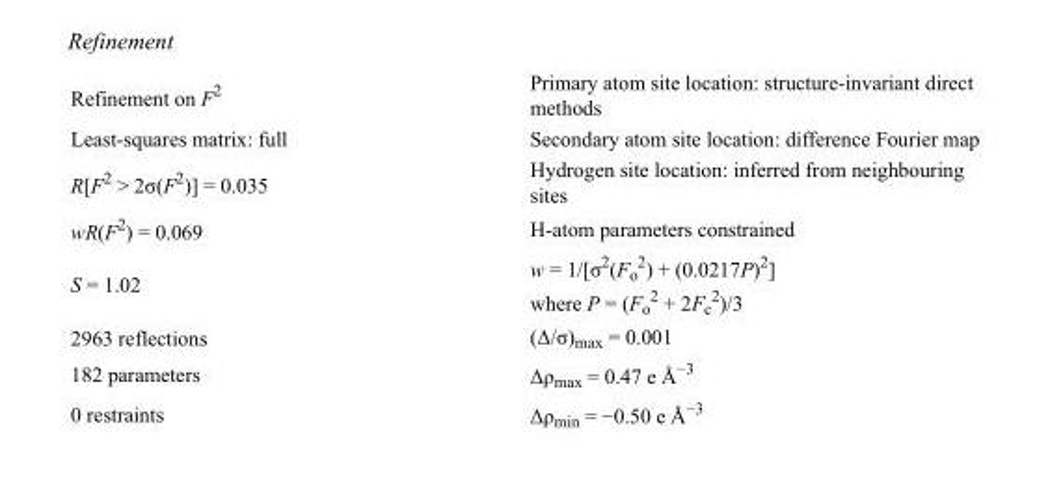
<table><tbody><tr><td>Refinement on F<sup>2</sup></td><td>Primary atom site location: structure-invariant direct methods</td></tr><tr><td>Least-squares matrix: full</td><td>Secondary atom site location: difference Fourier map</td></tr><tr><td>R[F<sup>2</sup> &gt; 2σ(F<sup>2</sup>)] = 0.035</td><td>Hydrogen site location: inferred from neighbouring sites</td></tr><tr><td>wR(F<sup>2</sup>) = 0.069</td><td>H-atom parameters constrained</td></tr><tr><td>S = 1.02</td><td>w = 1/[σ<sup>2</sup>(F<sub>o</sub> <sup>2</sup>) + (0.0217P)<sup>2</sup>] where P = (F<sub>o</sub> <sup>2</sup> + 2F<sub>c</sub> <sup>2</sup>)/3</td></tr><tr><td>2963 reflections</td><td>(Δ/σ)<sub>max</sub> = 0.001</td></tr><tr><td>182 parameters</td><td>Δρ<sub>max</sub> = 0.47 e Å<sup>−3</sup></td></tr><tr><td>0 restraints</td><td>Δρ<sub>min</sub> = −0.50 e Å<sup>−3</sup></td></tr></tbody></table>